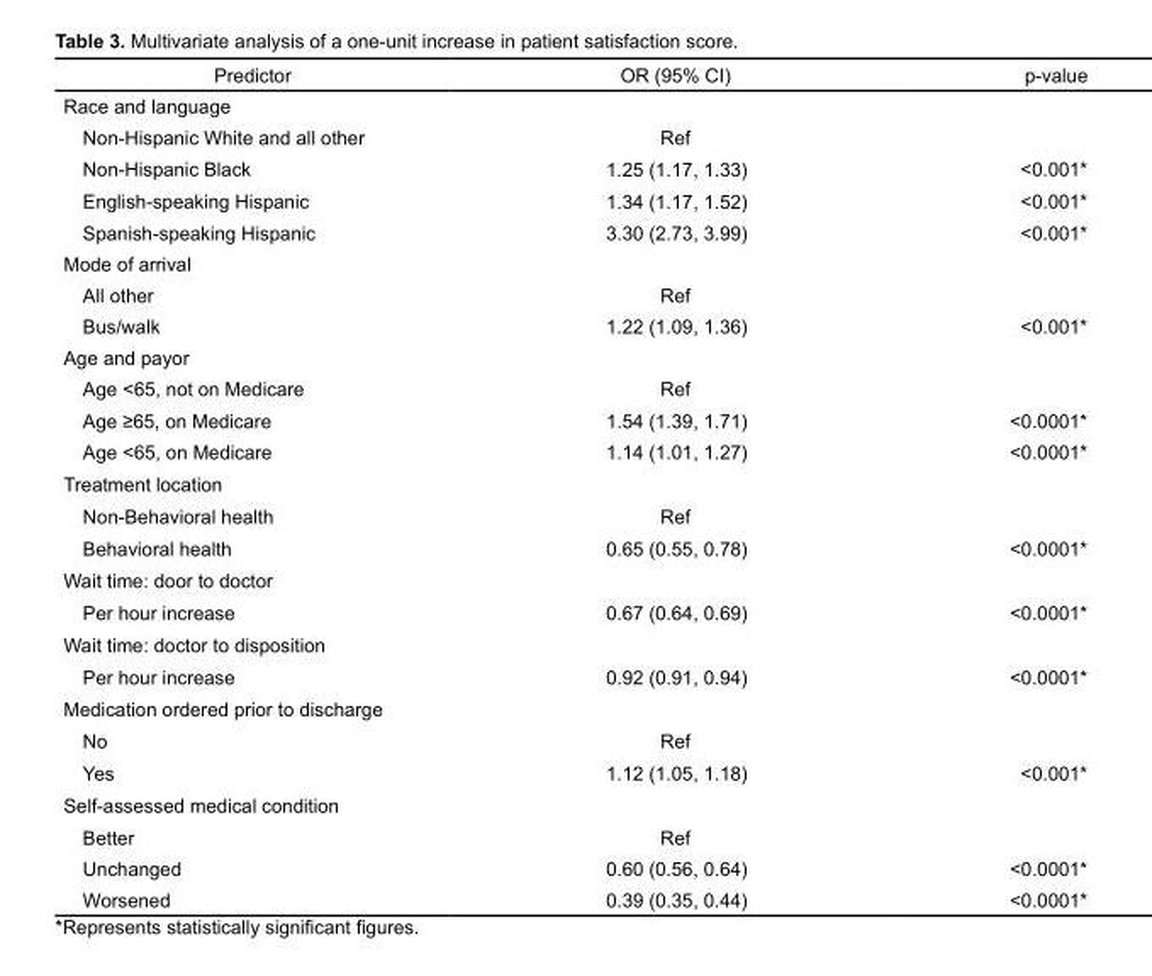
<table><thead><tr><td>Predictor</td><td>OR (95% CI)</td><td>p-value</td></tr></thead><tbody><tr><td colspan="3">Race and language</td></tr><tr><td>Non-Hispanic White and all other</td><td>Ref</td><td></td></tr><tr><td>Non-Hispanic Black</td><td>1.25 (1.17, 1.33)</td><td>&lt;0.001*</td></tr><tr><td>English-speaking Hispanic</td><td>1.34 (1.17, 1.52)</td><td>&lt;0.001*</td></tr><tr><td>Spanish-speaking Hispanic</td><td>3.30 (2.73, 3.99)</td><td>&lt;0.001*</td></tr><tr><td colspan="3">Mode of arrival</td></tr><tr><td>All other</td><td>Ref</td><td></td></tr><tr><td>Bus/walk</td><td>1.22 (1.09, 1.36)</td><td>&lt;0.001*</td></tr><tr><td colspan="3">Age and payor</td></tr><tr><td>Age &lt;65, not on Medicare</td><td>Ref</td><td></td></tr><tr><td>Age ≥65, on Medicare</td><td>1.54 (1.39, 1.71)</td><td>&lt;0.0001*</td></tr><tr><td>Age &lt;65, on Medicare</td><td>1.14 (1.01, 1.27)</td><td>&lt;0.0001*</td></tr><tr><td colspan="3">Treatment location</td></tr><tr><td>Non-Behavioral health</td><td>Ref</td><td></td></tr><tr><td>Behavioral health</td><td>0.65 (0.55, 0.78)</td><td>&lt;0.0001*</td></tr><tr><td colspan="3">Wait time: door to doctor</td></tr><tr><td>Per hour increase</td><td>0.67 (0.64, 0.69)</td><td>&lt;0.0001*</td></tr><tr><td colspan="3">Wait time: doctor to disposition</td></tr><tr><td>Per hour increase</td><td>0.92 (0.91, 0.94)</td><td>&lt;0.0001*</td></tr><tr><td colspan="3">Medication ordered prior to discharge</td></tr><tr><td>No</td><td>Ref</td><td></td></tr><tr><td>Yes</td><td>1.12 (1.05, 1.18)</td><td>&lt;0.001*</td></tr><tr><td colspan="3">Self-assessed medical condition</td></tr><tr><td>Better</td><td>Ref</td><td></td></tr><tr><td>Unchanged</td><td>0.60 (0.56, 0.64)</td><td>&lt;0.0001*</td></tr><tr><td>Worsened</td><td>0.39 (0.35, 0.44)</td><td>&lt;0.0001*</td></tr></tbody></table>